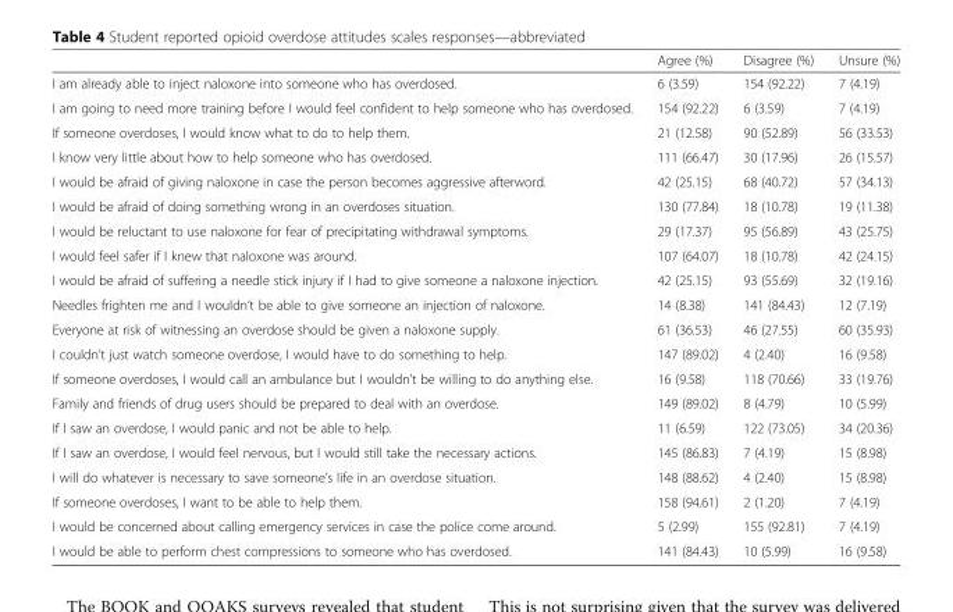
<table><thead><tr><td></td><td>Agree (%)</td><td>Disagree (%)</td><td>Unsure (%)</td></tr></thead><tbody><tr><td>I am already able to inject naloxone into someone who has overdosed.</td><td>6 (3.59)</td><td>154 (92.22)</td><td>7 (4.19)</td></tr><tr><td>I am going to need more training before I would feel confident to help someone who has overdosed.</td><td>154 (92.22)</td><td>6 (3.59)</td><td>7 (4.19)</td></tr><tr><td>If someone overdoses, I would know what to do to help them.</td><td>21 (12.58)</td><td>90 (52.89)</td><td>56 (33.53)</td></tr><tr><td>I know very little about how to help someone who has overdosed.</td><td>111 (66.47)</td><td>30 (17.96)</td><td>26 (15.57)</td></tr><tr><td>I would be afraid of giving naloxone in case the person becomes aggressive afterword.</td><td>42 (25.15)</td><td>68 (40.72)</td><td>57 (34.13)</td></tr><tr><td>I would be afraid of doing something wrong in an overdoses situation.</td><td>130 (77.84)</td><td>18 (10.78)</td><td>19 (11.38)</td></tr><tr><td>I would be reluctant to use naloxone for fear of precipitating withdrawal symptoms.</td><td>29 (17.37)</td><td>95 (56.89)</td><td>43 (25.75)</td></tr><tr><td>I would feel safer if I knew that naloxone was around.</td><td>107 (64.07)</td><td>18 (10.78)</td><td>42 (24.15)</td></tr><tr><td>I would be afraid of suffering a needle stick injury if I had to give someone a naloxone injection.</td><td>42 (25.15)</td><td>93 (55.69)</td><td>32 (19.16)</td></tr><tr><td>Needles frighten me and I wouldn’t be able to give someone an injection of naloxone.</td><td>14 (8.38)</td><td>141 (84.43)</td><td>12 (7.19)</td></tr><tr><td>Everyone at risk of witnessing an overdose should be given a naloxone supply.</td><td>61 (36.53)</td><td>46 (27.55)</td><td>60 (35.93)</td></tr><tr><td>I couldn’t just watch someone overdose, I would have to do something to help.</td><td>147 (89.02)</td><td>4 (2.40)</td><td>16 (9.58)</td></tr><tr><td>If someone overdoses, I would call an ambulance but I wouldn’t be willing to do anything else.</td><td>16 (9.58)</td><td>118 (70.66)</td><td>33 (19.76)</td></tr><tr><td>Family and friends of drug users should be prepared to deal with an overdose.</td><td>149 (89.02)</td><td>8 (4.79)</td><td>10 (5.99)</td></tr><tr><td>If I saw an overdose, I would panic and not be able to help.</td><td>11 (6.59)</td><td>122 (73.05)</td><td>34 (20.36)</td></tr><tr><td>If I saw an overdose, I would feel nervous, but I would still take the necessary actions.</td><td>145 (86.83)</td><td>7 (4.19)</td><td>15 (8.98)</td></tr><tr><td>I will do whatever is necessary to save someone’s life in an overdose situation.</td><td>148 (88.62)</td><td>4 (2.40)</td><td>15 (8.98)</td></tr><tr><td>If someone overdoses, I want to be able to help them.</td><td>158 (94.61)</td><td>2 (1.20)</td><td>7 (4.19)</td></tr><tr><td>I would be concerned about calling emergency services in case the police come around.</td><td>5 (2.99)</td><td>155 (92.81)</td><td>7 (4.19)</td></tr><tr><td>I would be able to perform chest compressions to someone who has overdosed.</td><td>141 (84.43)</td><td>10 (5.99)</td><td>16 (9.58)</td></tr></tbody></table>